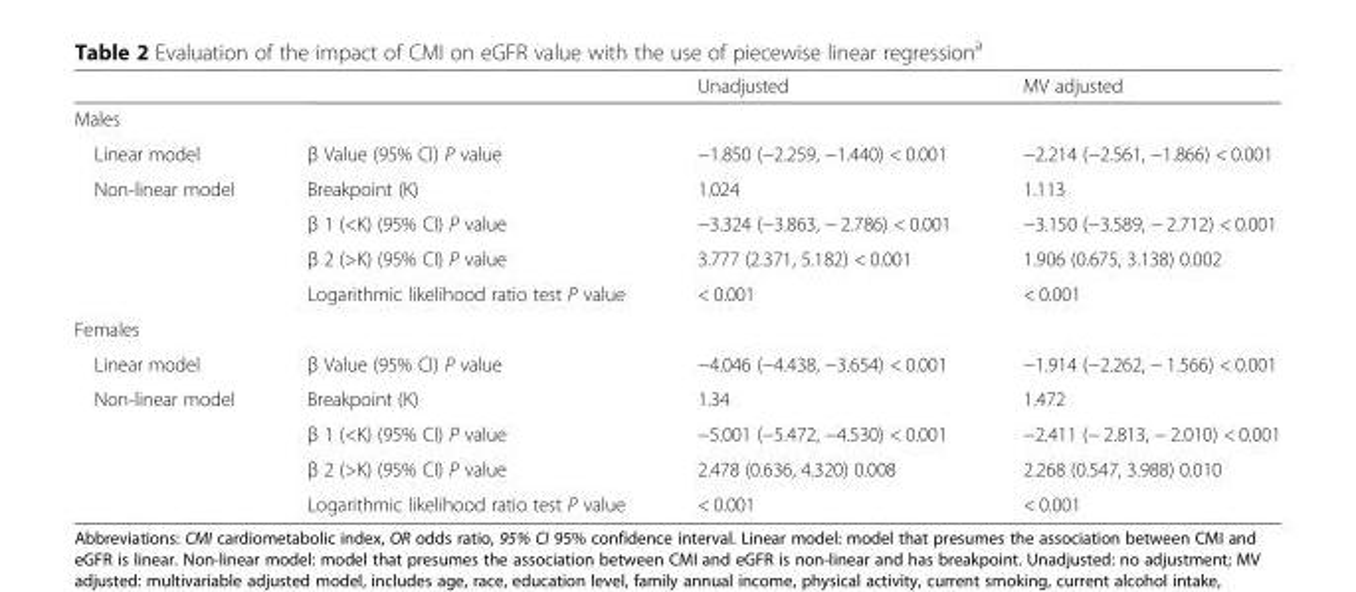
<table><thead><tr><td></td><td></td><td>Unadjusted</td><td>MV adjusted</td></tr></thead><tbody><tr><td colspan="4">Males</td></tr><tr><td>Linear model</td><td>β Value (95% CI) P value</td><td>−1.850 (−2.259, −1.440) &lt; 0.001</td><td>−2.214 (−2.561, −1.866) &lt; 0.001</td></tr><tr><td rowspan="4">Non-linear model</td><td>Breakpoint (K)</td><td>1.024</td><td>1.113</td></tr><tr><td>β 1 (&lt;K) (95% CI) P value</td><td>−3.324 (−3.863, − 2.786) &lt; 0.001</td><td>−3.150 (−3.589, − 2.712) &lt; 0.001</td></tr><tr><td>β 2 (&gt;K) (95% CI) P value</td><td>3.777 (2.371, 5.182) &lt; 0.001</td><td>1.906 (0.675, 3.138) 0.002</td></tr><tr><td>Logarithmic likelihood ratio test P value</td><td>&lt; 0.001</td><td>&lt; 0.001</td></tr><tr><td colspan="4">Females</td></tr><tr><td>Linear model</td><td>β Value (95% CI) P value</td><td>−4.046 (−4.438, −3.654) &lt; 0.001</td><td>−1.914 (−2.262, − 1.566) &lt; 0.001</td></tr><tr><td rowspan="4">Non-linear model</td><td>Breakpoint (K)</td><td>1.34</td><td>1.472</td></tr><tr><td>β 1 (&lt;K) (95% CI) P value</td><td>−5.001 (−5.472, −4.530) &lt; 0.001</td><td>−2.411 (− 2.813, − 2.010) &lt; 0.001</td></tr><tr><td>β 2 (&gt;K) (95% CI) P value</td><td>2.478 (0.636, 4.320) 0.008</td><td>2.268 (0.547, 3.988) 0.010</td></tr><tr><td>Logarithmic likelihood ratio test P value</td><td>&lt; 0.001</td><td>&lt; 0.001</td></tr></tbody></table>